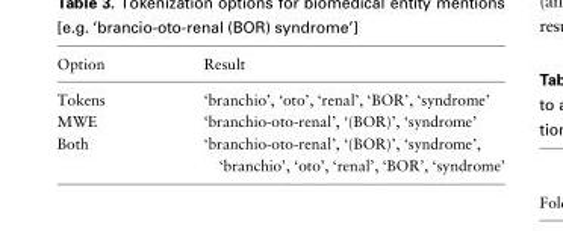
<table><thead><tr><td>Option</td><td>Result</td></tr></thead><tbody><tr><td>Tokens</td><td>‘branchio’, ‘oto’, ‘renal’, ‘BOR’, ‘syndrome’</td></tr><tr><td>MWE</td><td>‘branchio-oto-renal’, ‘(BOR)’, ‘syndrome’</td></tr><tr><td>Both</td><td>‘branchio-oto-renal’, ‘(BOR)’, ‘syndrome’, ‘branchio’, ‘oto’, ‘renal’, ‘BOR’, ‘syndrome’</td></tr></tbody></table>